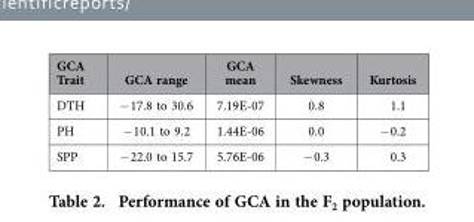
<table><thead><tr><td>GCA Trait</td><td>GCA range</td><td>GCA mean</td><td>Skewness</td><td>Kurtosis</td></tr></thead><tbody><tr><td>DTH</td><td>− 17.8 to 30.6</td><td>7.19E-07</td><td>0.8</td><td>1.1</td></tr><tr><td>PH</td><td>− 10.1 to 9.2</td><td>1.44E-06</td><td>0.0</td><td>− 0.2</td></tr><tr><td>SPP</td><td>− 22.0 to 15.7</td><td>5.76E-06</td><td>− 0.3</td><td>0.3</td></tr></tbody></table>